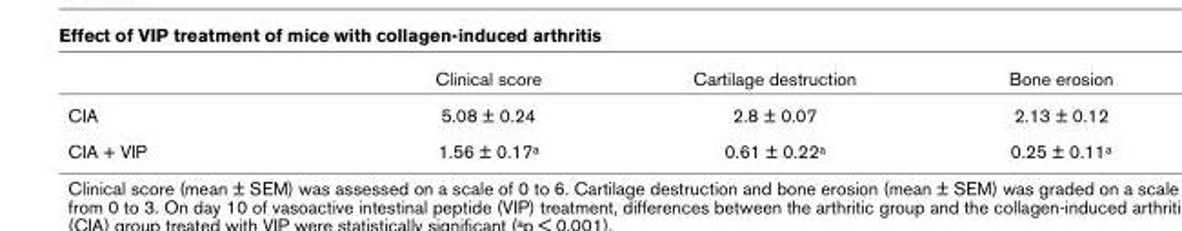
<table><thead><tr><td></td><td>Clinical score</td><td>Cartilage destruction</td><td>Bone erosion</td></tr></thead><tbody><tr><td>CIA</td><td>5.08 ± 0.24</td><td>2.8 ± 0.07</td><td>2.13 ± 0.12</td></tr><tr><td>CIA + VIP</td><td>1.56 ± 0.17a</td><td>0.61 ± 0.22a</td><td>0.25 ± 0.11a</td></tr></tbody></table>